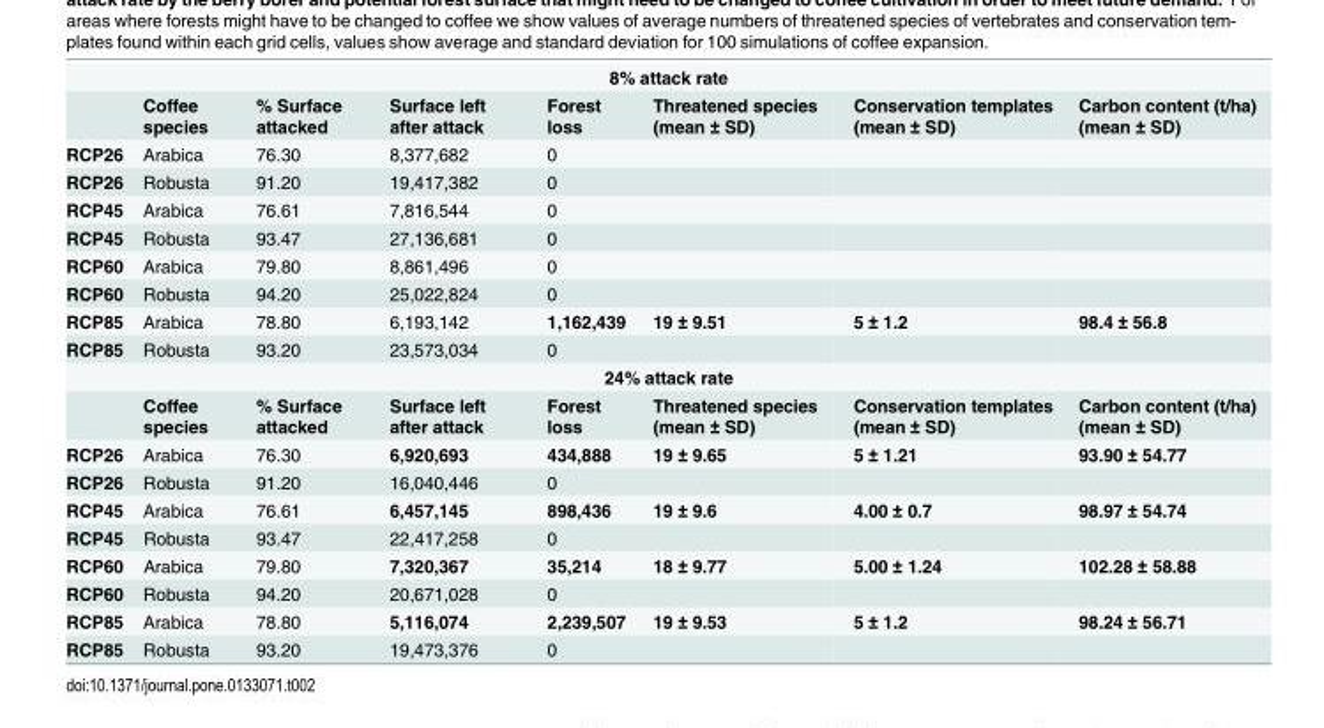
<table><tbody><tr><td colspan="8">8% attack rate</td></tr><tr><td></td><td>Coffee species</td><td>% Surface attacked</td><td>Surface left after attack</td><td>Forest loss</td><td>Threatened species (mean ± SD)</td><td>Conservation templates (mean ± SD)</td><td>Carbon content (t/ha) (mean ± SD)</td></tr><tr><td>RCP26</td><td>Arabica</td><td>76.30</td><td>8,377,682</td><td>0</td><td></td><td></td><td></td></tr><tr><td>RCP26</td><td>Robusta</td><td>91.20</td><td>19,417,382</td><td>0</td><td></td><td></td><td></td></tr><tr><td>RCP45</td><td>Arabica</td><td>76.61</td><td>7,816,544</td><td>0</td><td></td><td></td><td></td></tr><tr><td>RCP45</td><td>Robusta</td><td>93.47</td><td>27,136,681</td><td>0</td><td></td><td></td><td></td></tr><tr><td>RCP60</td><td>Arabica</td><td>79.80</td><td>8,861,496</td><td>0</td><td></td><td></td><td></td></tr><tr><td>RCP60</td><td>Robusta</td><td>94.20</td><td>25,022,824</td><td>0</td><td></td><td></td><td></td></tr><tr><td>RCP85</td><td>Arabica</td><td>78.80</td><td>6,193,142</td><td>1,162,439</td><td>19 ± 9.51</td><td>5 ± 1.2</td><td>98.4 ± 56.8</td></tr><tr><td>RCP85</td><td>Robusta</td><td>93.20</td><td>23,573,034</td><td>0</td><td></td><td></td><td></td></tr><tr><td colspan="8">24% attack rate</td></tr><tr><td></td><td>Coffee species</td><td>% Surface attacked</td><td>Surface left after attack</td><td>Forest loss</td><td>Threatened species (mean ± SD)</td><td>Conservation templates (mean ± SD)</td><td>Carbon content (t/ha) (mean ± SD)</td></tr><tr><td>RCP26</td><td>Arabica</td><td>76.30</td><td>6,920,693</td><td>434,888</td><td>19 ± 9.65</td><td>5 ± 1.21</td><td>93.90 ± 54.77</td></tr><tr><td>RCP26</td><td>Robusta</td><td>91.20</td><td>16,040,446</td><td>0</td><td></td><td></td><td></td></tr><tr><td>RCP45</td><td>Arabica</td><td>76.61</td><td>6,457,145</td><td>898,436</td><td>19 ± 9.6</td><td>4.00 ± 0.7</td><td>98.97 ± 54.74</td></tr><tr><td>RCP45</td><td>Robusta</td><td>93.47</td><td>22,417,258</td><td>0</td><td></td><td></td><td></td></tr><tr><td>RCP60</td><td>Arabica</td><td>79.80</td><td>7,320,367</td><td>35,214</td><td>18 ± 9.77</td><td>5.00 ± 1.24</td><td>102.28 ± 58.88</td></tr><tr><td>RCP60</td><td>Robusta</td><td>94.20</td><td>20,671,028</td><td>0</td><td></td><td></td><td></td></tr><tr><td>RCP85</td><td>Arabica</td><td>78.80</td><td>5,116,074</td><td>2,239,507</td><td>19 ± 9.53</td><td>5 ± 1.2</td><td>98.24 ± 56.71</td></tr><tr><td>RCP85</td><td>Robusta</td><td>93.20</td><td>19,473,376</td><td>0</td><td></td><td></td><td></td></tr></tbody></table>